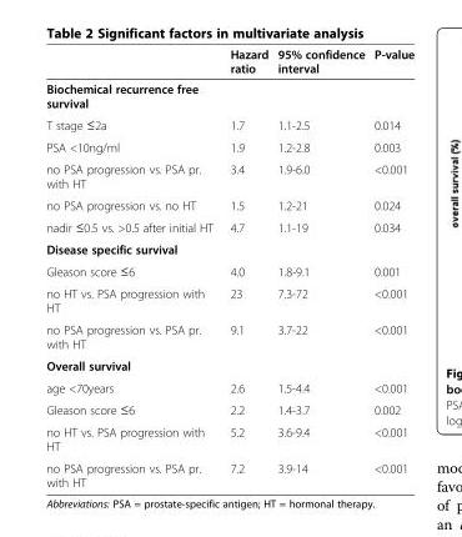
<table><thead><tr><td></td><td>Hazard ratio</td><td>95% confidence interval</td><td>P-value</td></tr></thead><tbody><tr><td colspan="4">Biochemical recurrence free survival</td></tr><tr><td>T stage ≤2a</td><td>1.7</td><td>1.1-2.5</td><td>0.014</td></tr><tr><td>PSA &lt;10ng/ml</td><td>1.9</td><td>1.2-2.8</td><td>0.003</td></tr><tr><td>no PSA progression vs. PSA pr. with HT</td><td>3.4</td><td>1.9-6.0</td><td>&lt;0.001</td></tr><tr><td>no PSA progression vs. no HT</td><td>1.5</td><td>1.2-21</td><td>0.024</td></tr><tr><td>nadir ≤0.5 vs. &gt;0.5 after initial HT</td><td>4.7</td><td>1.1-19</td><td>0.034</td></tr><tr><td colspan="4">Disease specific survival</td></tr><tr><td>Gleason score ≤6</td><td>4.0</td><td>1.8-9.1</td><td>0.001</td></tr><tr><td>no HT vs. PSA progression with HT</td><td>23</td><td>7.3-72</td><td>&lt;0.001</td></tr><tr><td>no PSA progression vs. PSA pr. with HT</td><td>9.1</td><td>3.7-22</td><td>&lt;0.001</td></tr><tr><td colspan="4">Overall survival</td></tr><tr><td>age &lt;70years</td><td>2.6</td><td>1.5-4.4</td><td>&lt;0.001</td></tr><tr><td>Gleason score ≤6</td><td>2.2</td><td>1.4-3.7</td><td>0.002</td></tr><tr><td>no HT vs. PSA progression with HT</td><td>5.2</td><td>3.6-9.4</td><td>&lt;0.001</td></tr><tr><td>no PSA progression vs. PSA pr. with HT</td><td>7.2</td><td>3.9-14</td><td>&lt;0.001</td></tr></tbody></table>